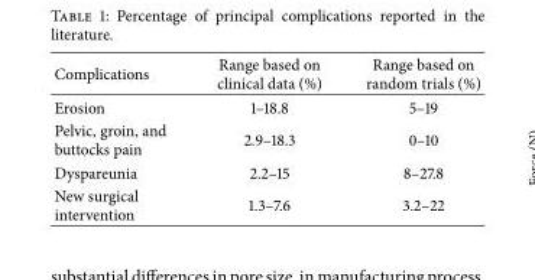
<table><thead><tr><td>Complications</td><td>Range based on clinical data (%)</td><td>Range based on random trials (%)</td></tr></thead><tbody><tr><td>Erosion</td><td>1–18.8</td><td>5–19</td></tr><tr><td>Pelvic, groin, and buttocks pain</td><td>2.9–18.3</td><td>0–10</td></tr><tr><td>Dyspareunia</td><td>2.2–15</td><td>8–27.8</td></tr><tr><td>New surgical intervention</td><td>1.3–7.6</td><td>3.2–22</td></tr></tbody></table>